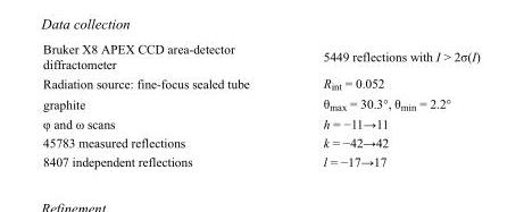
<table><tbody><tr><td>Bruker X8 APEX CCD area-detector diffractometer</td><td>5449 reflections with I &gt; 2σ(I)</td></tr><tr><td>Radiation source: fine-focus sealed tube</td><td>R<sub>int</sub> = 0.052</td></tr><tr><td>graphite</td><td>θ<sub>max</sub> = 30.3°, θ<sub>min</sub> = 2.2°</td></tr><tr><td>φ and ω scans</td><td>h = −11→11</td></tr><tr><td>45783 measured reflections</td><td>k = −42→42</td></tr><tr><td>8407 independent reflections</td><td>l = −17→17</td></tr></tbody></table>